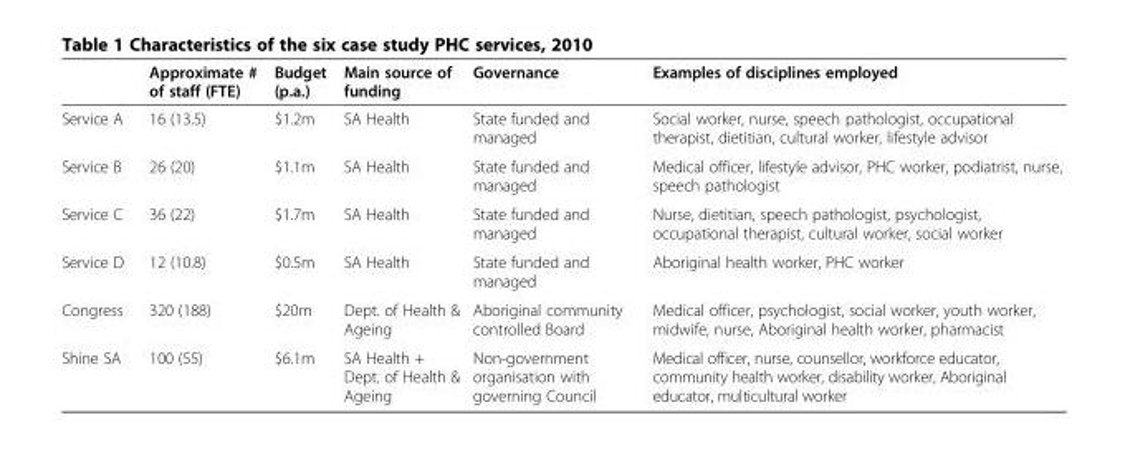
<table><thead><tr><td></td><td>Approximate # of staff (FTE)</td><td>Budget (p.a.)</td><td>Main source of funding</td><td>Governance</td><td>Examples of disciplines employed</td></tr></thead><tbody><tr><td>Service A</td><td>16 (13.5)</td><td>$1.2m</td><td>SA Health</td><td>State funded and managed</td><td>Social worker, nurse, speech pathologist, occupational therapist, dietitian, cultural worker, lifestyle advisor</td></tr><tr><td>Service B</td><td>26 (20)</td><td>$1.1m</td><td>SA Health</td><td>State funded and managed</td><td>Medical officer, lifestyle advisor, PHC worker, podiatrist, nurse, speech pathologist</td></tr><tr><td>Service C</td><td>36 (22)</td><td>$1.7m</td><td>SA Health</td><td>State funded and managed</td><td>Nurse, dietitian, speech pathologist, psychologist, occupational therapist, cultural worker, social worker</td></tr><tr><td>Service D</td><td>12 (10.8)</td><td>$0.5m</td><td>SA Health</td><td>State funded and managed</td><td>Aboriginal health worker, PHC worker</td></tr><tr><td>Congress</td><td>320 (188)</td><td>$20m</td><td>Dept. of Health &amp; Ageing</td><td>Aboriginal community controlled Board</td><td>Medical officer, psychologist, social worker, youth worker, midwife, nurse, Aboriginal health worker, pharmacist</td></tr><tr><td>Shine SA</td><td>100 (55)</td><td>$6.1m</td><td>SA Health + Dept. of Health &amp; Ageing</td><td>Non-government organisation with governing Council</td><td>Medical officer, nurse, counsellor, workforce educator, community health worker, disability worker, Aboriginal educator, multicultural worker</td></tr></tbody></table>